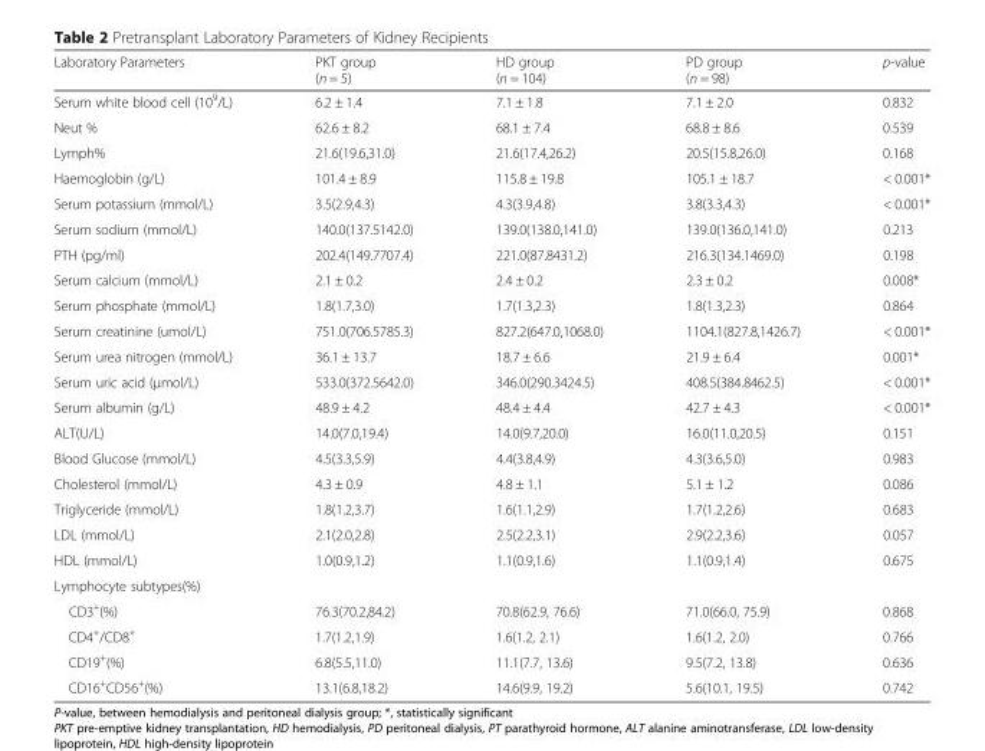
<table><thead><tr><td>Laboratory Parameters</td><td>PKT group (n = 5)</td><td>HD group (n = 104)</td><td>PD group (n = 98)</td><td>p-value</td></tr></thead><tbody><tr><td>Serum white blood cell (10<sup>9</sup>/L)</td><td>6.2 ± 1.4</td><td>7.1 ± 1.8</td><td>7.1 ± 2.0</td><td>0.832</td></tr><tr><td>Neut %</td><td>62.6 ± 8.2</td><td>68.1 ± 7.4</td><td>68.8 ± 8.6</td><td>0.539</td></tr><tr><td>Lymph%</td><td>21.6(19.6,31.0)</td><td>21.6(17.4,26.2)</td><td>20.5(15.8,26.0)</td><td>0.168</td></tr><tr><td>Haemoglobin (g/L)</td><td>101.4 ± 8.9</td><td>115.8 ± 19.8</td><td>105.1 ± 18.7</td><td>&lt; 0.001*</td></tr><tr><td>Serum potassium (mmol/L)</td><td>3.5(2.9,4.3)</td><td>4.3(3.9,4.8)</td><td>3.8(3.3,4.3)</td><td>&lt; 0.001*</td></tr><tr><td>Serum sodium (mmol/L)</td><td>140.0(137.5142.0)</td><td>139.0(138.0,141.0)</td><td>139.0(136.0,141.0)</td><td>0.213</td></tr><tr><td>PTH (pg/ml)</td><td>202.4(149.7707.4)</td><td>221.0(87.8431.2)</td><td>216.3(134.1469.0)</td><td>0.198</td></tr><tr><td>Serum calcium (mmol/L)</td><td>2.1 ± 0.2</td><td>2.4 ± 0.2</td><td>2.3 ± 0.2</td><td>0.008*</td></tr><tr><td>Serum phosphate (mmol/L)</td><td>1.8(1.7,3.0)</td><td>1.7(1.3,2.3)</td><td>1.8(1.3,2.3)</td><td>0.864</td></tr><tr><td>Serum creatinine (umol/L)</td><td>751.0(706.5785.3)</td><td>827.2(647.0,1068.0)</td><td>1104.1(827.8,1426.7)</td><td>&lt; 0.001*</td></tr><tr><td>Serum urea nitrogen (mmol/L)</td><td>36.1 ± 13.7</td><td>18.7 ± 6.6</td><td>21.9 ± 6.4</td><td>0.001*</td></tr><tr><td>Serum uric acid (μmol/L)</td><td>533.0(372.5642.0)</td><td>346.0(290.3424.5)</td><td>408.5(384.8462.5)</td><td>&lt; 0.001*</td></tr><tr><td>Serum albumin (g/L)</td><td>48.9 ± 4.2</td><td>48.4 ± 4.4</td><td>42.7 ± 4.3</td><td>&lt; 0.001*</td></tr><tr><td>ALT(U/L)</td><td>14.0(7.0,19.4)</td><td>14.0(9.7,20.0)</td><td>16.0(11.0,20.5)</td><td>0.151</td></tr><tr><td>Blood Glucose (mmol/L)</td><td>4.5(3.3,5.9)</td><td>4.4(3.8,4.9)</td><td>4.3(3.6,5.0)</td><td>0.983</td></tr><tr><td>Cholesterol (mmol/L)</td><td>4.3 ± 0.9</td><td>4.8 ± 1.1</td><td>5.1 ± 1.2</td><td>0.086</td></tr><tr><td>Triglyceride (mmol/L)</td><td>1.8(1.2,3.7)</td><td>1.6(1.1,2.9)</td><td>1.7(1.2,2.6)</td><td>0.683</td></tr><tr><td>LDL (mmol/L)</td><td>2.1(2.0,2.8)</td><td>2.5(2.2,3.1)</td><td>2.9(2.2,3.6)</td><td>0.057</td></tr><tr><td>HDL (mmol/L)</td><td>1.0(0.9,1.2)</td><td>1.1(0.9,1.6)</td><td>1.1(0.9,1.4)</td><td>0.675</td></tr><tr><td colspan="5">Lymphocyte subtypes(%)</td></tr><tr><td>CD3<sup>+</sup>(%)</td><td>76.3(70.2,84.2)</td><td>70.8(62.9, 76.6)</td><td>71.0(66.0, 75.9)</td><td>0.868</td></tr><tr><td>CD4<sup>+</sup>/CD8<sup>+</sup></td><td>1.7(1.2,1.9)</td><td>1.6(1.2, 2.1)</td><td>1.6(1.2, 2.0)</td><td>0.766</td></tr><tr><td>CD19<sup>+</sup>(%)</td><td>6.8(5.5,11.0)</td><td>11.1(7.7, 13.6)</td><td>9.5(7.2, 13.8)</td><td>0.636</td></tr><tr><td>CD16<sup>+</sup>CD56<sup>+</sup>(%)</td><td>13.1(6.8,18.2)</td><td>14.6(9.9, 19.2)</td><td>5.6(10.1, 19.5)</td><td>0.742</td></tr></tbody></table>